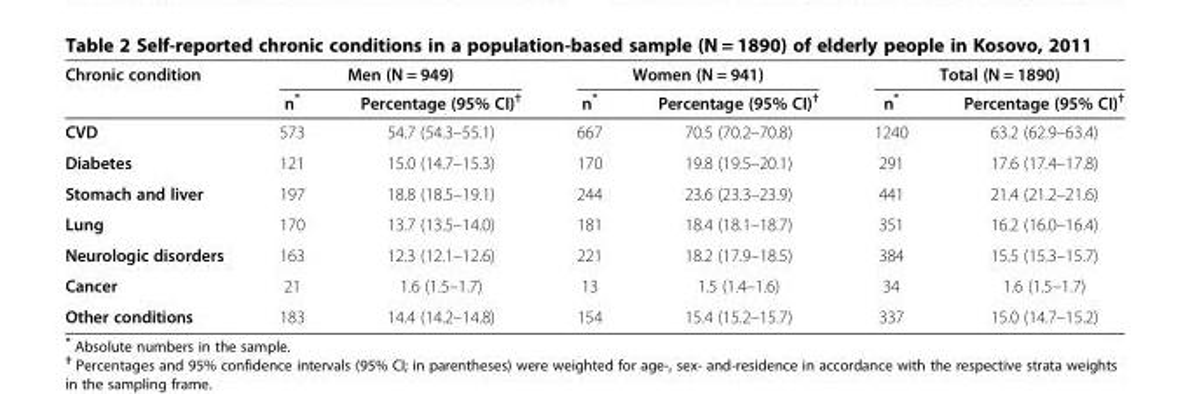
<table><thead><tr><td rowspan="2">Chronic condition</td><td colspan="2">Men (N = 949)</td><td colspan="2">Women (N = 941)</td><td colspan="2">Total (N = 1890)</td></tr><tr><td>n*</td><td>Percentage (95% CI)<sup>†</sup></td><td>n*</td><td>Percentage (95% CI)<sup>†</sup></td><td>n*</td><td>Percentage (95% CI)<sup>†</sup></td></tr></thead><tbody><tr><td>CVD</td><td>573</td><td>54.7 (54.3–55.1)</td><td>667</td><td>70.5 (70.2–70.8)</td><td>1240</td><td>63.2 (62.9–63.4)</td></tr><tr><td>Diabetes</td><td>121</td><td>15.0 (14.7–15.3)</td><td>170</td><td>19.8 (19.5–20.1)</td><td>291</td><td>17.6 (17.4–17.8)</td></tr><tr><td>Stomach and liver</td><td>197</td><td>18.8 (18.5–19.1)</td><td>244</td><td>23.6 (23.3–23.9)</td><td>441</td><td>21.4 (21.2–21.6)</td></tr><tr><td>Lung</td><td>170</td><td>13.7 (13.5–14.0)</td><td>181</td><td>18.4 (18.1–18.7)</td><td>351</td><td>16.2 (16.0–16.4)</td></tr><tr><td>Neurologic disorders</td><td>163</td><td>12.3 (12.1–12.6)</td><td>221</td><td>18.2 (17.9–18.5)</td><td>384</td><td>15.5 (15.3–15.7)</td></tr><tr><td>Cancer</td><td>21</td><td>1.6 (1.5–1.7)</td><td>13</td><td>1.5 (1.4–1.6)</td><td>34</td><td>1.6 (1.5–1.7)</td></tr><tr><td>Other conditions</td><td>183</td><td>14.4 (14.2–14.8)</td><td>154</td><td>15.4 (15.2–15.7)</td><td>337</td><td>15.0 (14.7–15.2)</td></tr></tbody></table>